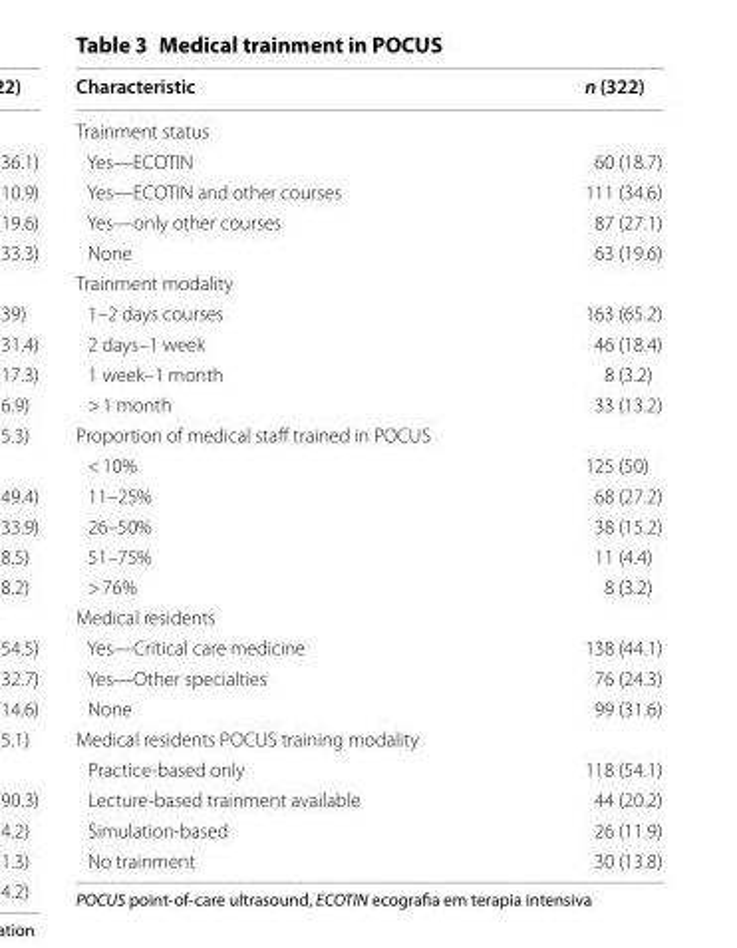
<table><thead><tr><td>Characteristic</td><td>n (322)</td></tr></thead><tbody><tr><td colspan="2">Trainment status</td></tr><tr><td>Yes—ECOTIN</td><td>60 (18.7)</td></tr><tr><td>Yes—ECOTIN and other courses</td><td>111 (34.6)</td></tr><tr><td>Yes—only other courses</td><td>87 (27.1)</td></tr><tr><td>None</td><td>63 (19.6)</td></tr><tr><td colspan="2">Trainment modality</td></tr><tr><td>1–2 days courses</td><td>163 (65.2)</td></tr><tr><td>2 days–1 week</td><td>46 (18.4)</td></tr><tr><td>1 week–1 month</td><td>8 (3.2)</td></tr><tr><td>&gt; 1 month</td><td>33 (13.2)</td></tr><tr><td colspan="2">Proportion of medical staff trained in POCUS</td></tr><tr><td>&lt; 10%</td><td>125 (50)</td></tr><tr><td>11–25%</td><td>68 (27.2)</td></tr><tr><td>26–50%</td><td>38 (15.2)</td></tr><tr><td>51–75%</td><td>11 (4.4)</td></tr><tr><td>&gt; 76%</td><td>8 (3.2)</td></tr><tr><td colspan="2">Medical residents</td></tr><tr><td>Yes—Critical care medicine</td><td>138 (44.1)</td></tr><tr><td>Yes—Other specialties</td><td>76 (24.3)</td></tr><tr><td>None</td><td>99 (31.6)</td></tr><tr><td colspan="2">Medical residents POCUS training modality</td></tr><tr><td>Practice-based only</td><td>118 (54.1)</td></tr><tr><td>Lecture-based trainment available</td><td>44 (20.2)</td></tr><tr><td>Simulation-based</td><td>26 (11.9)</td></tr><tr><td>No trainment</td><td>30 (13.8)</td></tr></tbody></table>